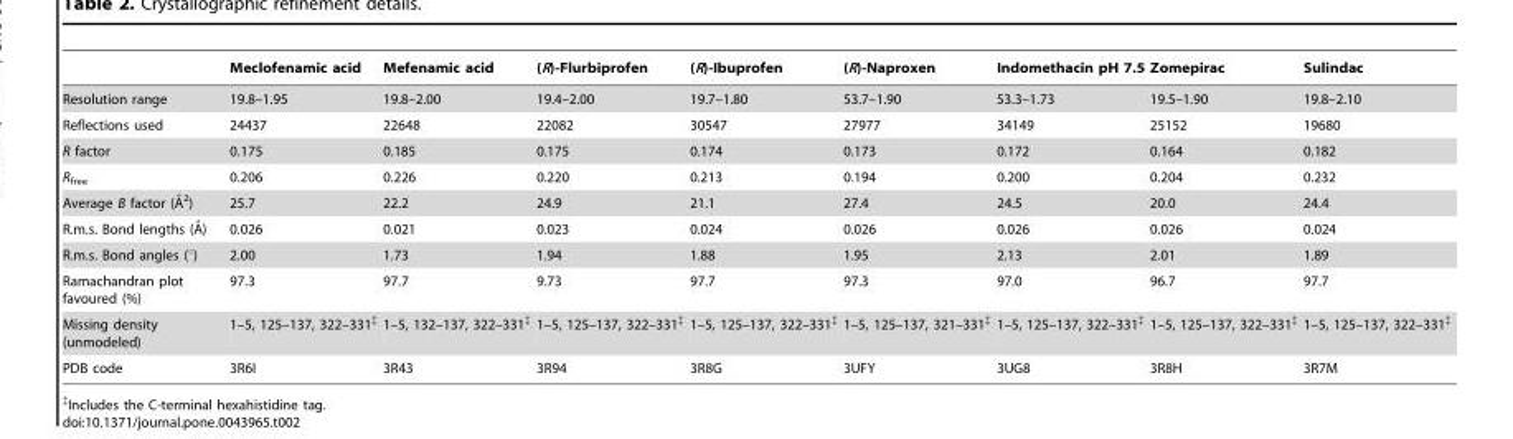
<table><thead><tr><td></td><td>Meclofenamic acid</td><td>Mefenamic acid</td><td>(R)-Flurbiprofen</td><td>(R)-Ibuprofen</td><td>(R)-Naproxen</td><td>Indomethacin pH 7.5</td><td>Zomepirac</td><td>Sulindac</td></tr></thead><tbody><tr><td>Resolution range</td><td>19.8–1.95</td><td>19.8–2.00</td><td>19.4–2.00</td><td>19.7–1.80</td><td>53.7–1.90</td><td>53.3–1.73</td><td>19.5–1.90</td><td>19.8–2.10</td></tr><tr><td>Reflections used</td><td>24437</td><td>22648</td><td>22082</td><td>30547</td><td>27977</td><td>34149</td><td>25152</td><td>19680</td></tr><tr><td>R factor</td><td>0.175</td><td>0.185</td><td>0.175</td><td>0.174</td><td>0.173</td><td>0.172</td><td>0.164</td><td>0.182</td></tr><tr><td>R<sub>free</sub></td><td>0.206</td><td>0.226</td><td>0.220</td><td>0.213</td><td>0.194</td><td>0.200</td><td>0.204</td><td>0.232</td></tr><tr><td>Average B factor (A˚2)</td><td>25.7</td><td>22.2</td><td>24.9</td><td>21.1</td><td>27.4</td><td>24.5</td><td>20.0</td><td>24.4</td></tr><tr><td>R.m.s. Bond lengths (A˚)</td><td>0.026</td><td>0.021</td><td>0.023</td><td>0.024</td><td>0.026</td><td>0.026</td><td>0.026</td><td>0.024</td></tr><tr><td>R.m.s. Bond angles (°)</td><td>2.00</td><td>1.73</td><td>1.94</td><td>1.88</td><td>1.95</td><td>2.13</td><td>2.01</td><td>1.89</td></tr><tr><td>Ramachandran plot favoured (%)</td><td>97.3</td><td>97.7</td><td>9.73</td><td>97.7</td><td>97.3</td><td>97.0</td><td>96.7</td><td>97.7</td></tr><tr><td>Missing density (unmodeled)</td><td>1–5, 125–137, 322–331‡</td><td>1–5, 132–137, 322–331‡</td><td>1–5, 125–137, 322–331‡</td><td>1–5, 125–137, 322–331‡</td><td>1–5, 125–137, 321–331‡</td><td>1–5, 125–137, 322–331‡</td><td>1–5, 125–137, 322–331‡</td><td>1–5, 125–137, 322–331‡</td></tr><tr><td>PDB code</td><td>3R6I</td><td>3R43</td><td>3R94</td><td>3R8G</td><td>3UFY</td><td>3UG8</td><td>3R8H</td><td>3R7M</td></tr></tbody></table>